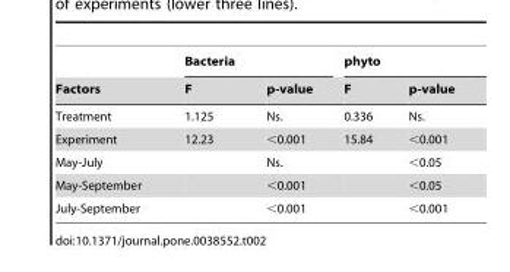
<table><thead><tr><td rowspan="2">Factors</td><td colspan="2">Bacteria</td><td colspan="2">phyto</td></tr><tr><td>F</td><td>p-value</td><td>F</td><td>p-value</td></tr></thead><tbody><tr><td>Treatment</td><td>1.125</td><td>Ns.</td><td>0.336</td><td>Ns.</td></tr><tr><td>Experiment</td><td>12.23</td><td>&lt;0.001</td><td>15.84</td><td>&lt;0.001</td></tr><tr><td>May-July</td><td></td><td>Ns.</td><td></td><td>&lt;0.05</td></tr><tr><td>May-September</td><td></td><td>&lt;0.001</td><td></td><td>&lt;0.05</td></tr><tr><td>July-September</td><td></td><td>&lt;0.001</td><td></td><td>&lt;0.001</td></tr></tbody></table>